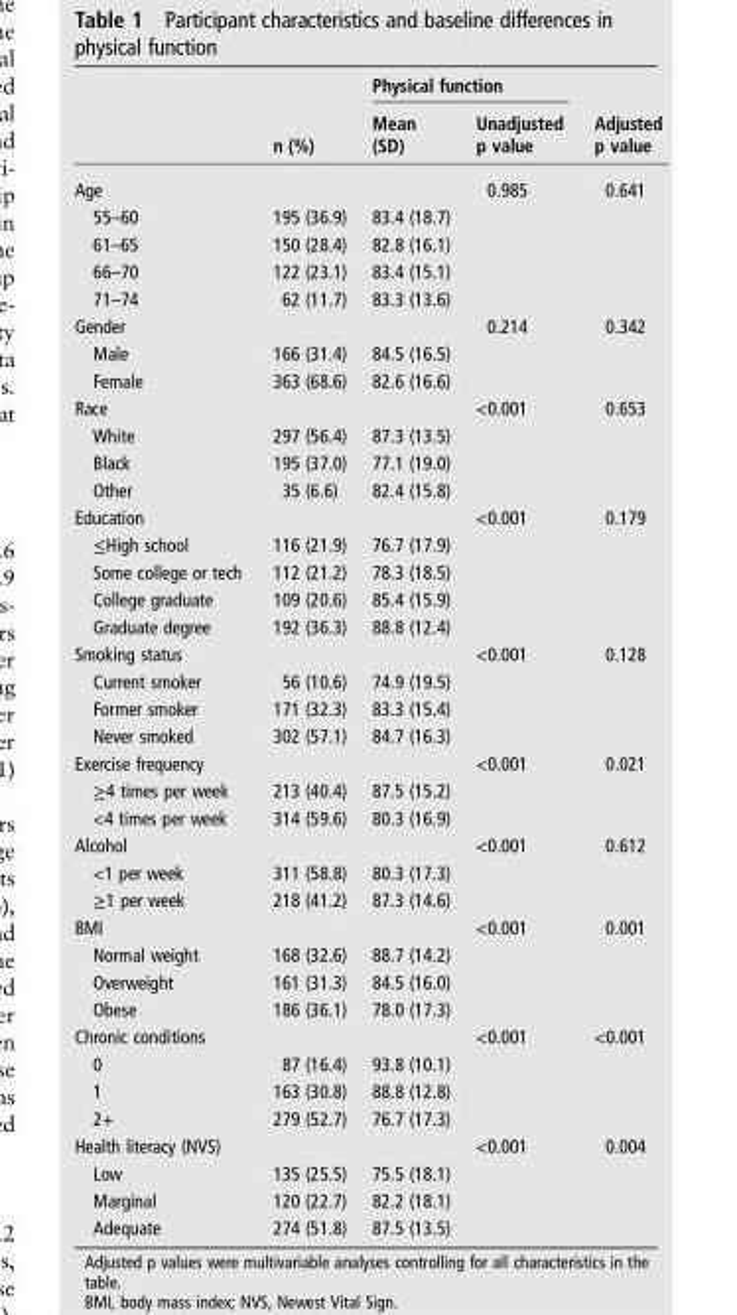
<table><thead><tr><td rowspan="2"></td><td rowspan="2">n (%)</td><td colspan="2">Physical function</td><td rowspan="2">Adjusted p value</td></tr><tr><td>Mean (SD)</td><td>Unadjusted p value</td></tr></thead><tbody><tr><td>Age</td><td></td><td></td><td>0.985</td><td>0.641</td></tr><tr><td>55–60</td><td>195 (36.9)</td><td>83.4 (18.7)</td><td></td><td></td></tr><tr><td>61–65</td><td>150 (28.4)</td><td>82.8 (16.1)</td><td></td><td></td></tr><tr><td>66–70</td><td>122 (23.1)</td><td>83.4 (15.1)</td><td></td><td></td></tr><tr><td>71–74</td><td>62 (11.7)</td><td>83.3 (13.6)</td><td></td><td></td></tr><tr><td>Gender</td><td></td><td></td><td>0.214</td><td>0.342</td></tr><tr><td>Male</td><td>166 (31.4)</td><td>84.5 (16.5)</td><td></td><td></td></tr><tr><td>Female</td><td>363 (68.6)</td><td>82.6 (16.6)</td><td></td><td></td></tr><tr><td>Race</td><td></td><td></td><td>&lt;0.001</td><td>0.653</td></tr><tr><td>White</td><td>297 (56.4)</td><td>87.3 (13.5)</td><td></td><td></td></tr><tr><td>Black</td><td>195 (37.0)</td><td>77.1 (19.0)</td><td></td><td></td></tr><tr><td>Other</td><td>35 (6.6)</td><td>82.4 (15.8)</td><td></td><td></td></tr><tr><td>Education</td><td></td><td></td><td>&lt;0.001</td><td>0.179</td></tr><tr><td>≤High school</td><td>116 (21.9)</td><td>76.7 (17.9)</td><td></td><td></td></tr><tr><td>Some college or tech</td><td>112 (21.2)</td><td>78.3 (18.5)</td><td></td><td></td></tr><tr><td>College graduate</td><td>109 (20.6)</td><td>85.4 (15.9)</td><td></td><td></td></tr><tr><td>Graduate degree</td><td>192 (36.3)</td><td>88.8 (12.4)</td><td></td><td></td></tr><tr><td>Smoking status</td><td></td><td></td><td>&lt;0.001</td><td>0.128</td></tr><tr><td>Current smoker</td><td>56 (10.6)</td><td>74.9 (19.5)</td><td></td><td></td></tr><tr><td>Former smoker</td><td>171 (32.3)</td><td>83.3 (15.4)</td><td></td><td></td></tr><tr><td>Never smoked</td><td>302 (57.1)</td><td>84.7 (16.3)</td><td></td><td></td></tr><tr><td>Exercise frequency</td><td></td><td></td><td>&lt;0.001</td><td>0.021</td></tr><tr><td>≥4 times per week</td><td>213 (40.4)</td><td>87.5 (15.2)</td><td></td><td></td></tr><tr><td>&lt;4 times per week</td><td>314 (59.6)</td><td>80.3 (16.9)</td><td></td><td></td></tr><tr><td>Alcohol</td><td></td><td></td><td>&lt;0.001</td><td>0.612</td></tr><tr><td>&lt;1 per week</td><td>311 (58.8)</td><td>80.3 (17.3)</td><td></td><td></td></tr><tr><td>≥1 per week</td><td>218 (41.2)</td><td>87.3 (14.6)</td><td></td><td></td></tr><tr><td>BMI</td><td></td><td></td><td>&lt;0.001</td><td>0.001</td></tr><tr><td>Normal weight</td><td>168 (32.6)</td><td>88.7 (14.2)</td><td></td><td></td></tr><tr><td>Overweight</td><td>161 (31.3)</td><td>84.5 (16.0)</td><td></td><td></td></tr><tr><td>Obese</td><td>186 (36.1)</td><td>78.0 (17.3)</td><td></td><td></td></tr><tr><td>Chronic conditions</td><td></td><td></td><td>&lt;0.001</td><td>&lt;0.001</td></tr><tr><td>0</td><td>87 (16.4)</td><td>93.8 (10.1)</td><td></td><td></td></tr><tr><td>1</td><td>163 (30.8)</td><td>88.8 (12.8)</td><td></td><td></td></tr><tr><td>2+</td><td>279 (52.7)</td><td>76.7 (17.3)</td><td></td><td></td></tr><tr><td>Health literacy (NVS)</td><td></td><td></td><td>&lt;0.001</td><td>0.004</td></tr><tr><td>Low</td><td>135 (25.5)</td><td>75.5 (18.1)</td><td></td><td></td></tr><tr><td>Marginal</td><td>120 (22.7)</td><td>82.2 (18.1)</td><td></td><td></td></tr><tr><td>Adequate</td><td>274 (51.8)</td><td>87.5 (13.5)</td><td></td><td></td></tr></tbody></table>